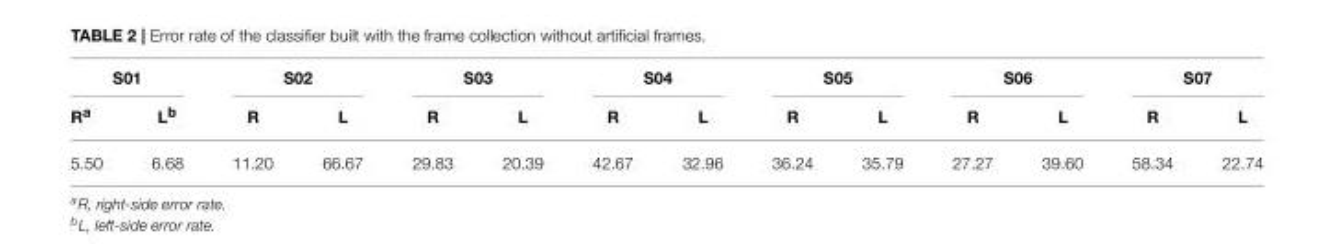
<table><thead><tr><td colspan="2">S01</td><td colspan="2">S02</td><td colspan="2">S03</td><td colspan="2">S04</td><td colspan="2">S05</td><td colspan="2">S06</td><td colspan="2">S07</td></tr><tr><td>R<sup>a</sup></td><td>L<sup>b</sup></td><td>R</td><td>L</td><td>R</td><td>L</td><td>R</td><td>L</td><td>R</td><td>L</td><td>R</td><td>L</td><td>R</td><td>L</td></tr></thead><tbody><tr><td>5.50</td><td>6.68</td><td>11.20</td><td>66.67</td><td>29.83</td><td>20.39</td><td>42.67</td><td>32.96</td><td>36.24</td><td>35.79</td><td>27.27</td><td>39.60</td><td>58.34</td><td>22.74</td></tr></tbody></table>